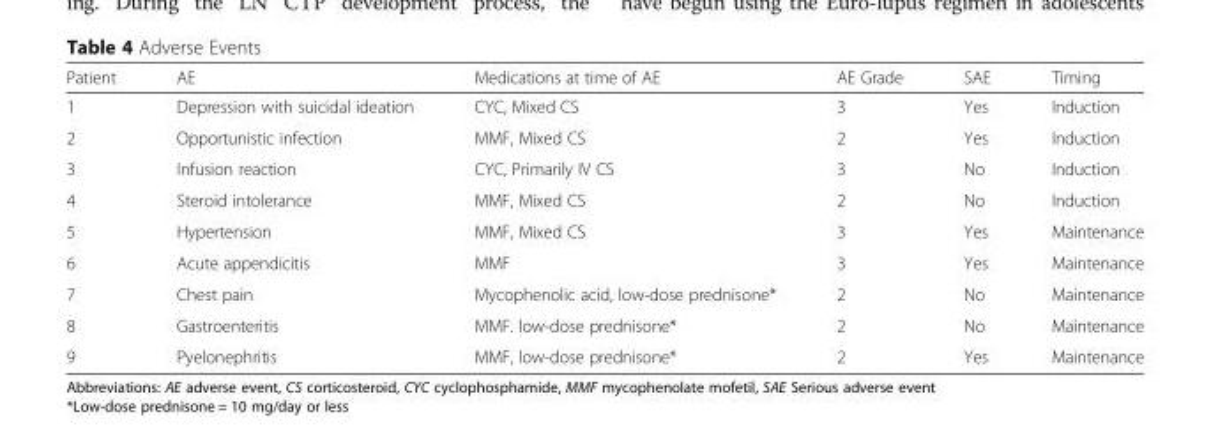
<table><thead><tr><td>Patient</td><td>AE</td><td>Medications at time of AE</td><td>AE Grade</td><td>SAE</td><td>Timing</td></tr></thead><tbody><tr><td>1</td><td>Depression with suicidal ideation</td><td>CYC, Mixed CS</td><td>3</td><td>Yes</td><td>Induction</td></tr><tr><td>2</td><td>Opportunistic infection</td><td>MMF, Mixed CS</td><td>2</td><td>Yes</td><td>Induction</td></tr><tr><td>3</td><td>Infusion reaction</td><td>CYC, Primarily IV CS</td><td>3</td><td>No</td><td>Induction</td></tr><tr><td>4</td><td>Steroid intolerance</td><td>MMF, Mixed CS</td><td>2</td><td>No</td><td>Induction</td></tr><tr><td>5</td><td>Hypertension</td><td>MMF, Mixed CS</td><td>3</td><td>Yes</td><td>Maintenance</td></tr><tr><td>6</td><td>Acute appendicitis</td><td>MMF</td><td>3</td><td>Yes</td><td>Maintenance</td></tr><tr><td>7</td><td>Chest pain</td><td>Mycophenolic acid, low-dose prednisone*</td><td>2</td><td>No</td><td>Maintenance</td></tr><tr><td>8</td><td>Gastroenteritis</td><td>MMF. low-dose prednisone*</td><td>2</td><td>No</td><td>Maintenance</td></tr><tr><td>9</td><td>Pyelonephritis</td><td>MMF, low-dose prednisone*</td><td>2</td><td>Yes</td><td>Maintenance</td></tr></tbody></table>